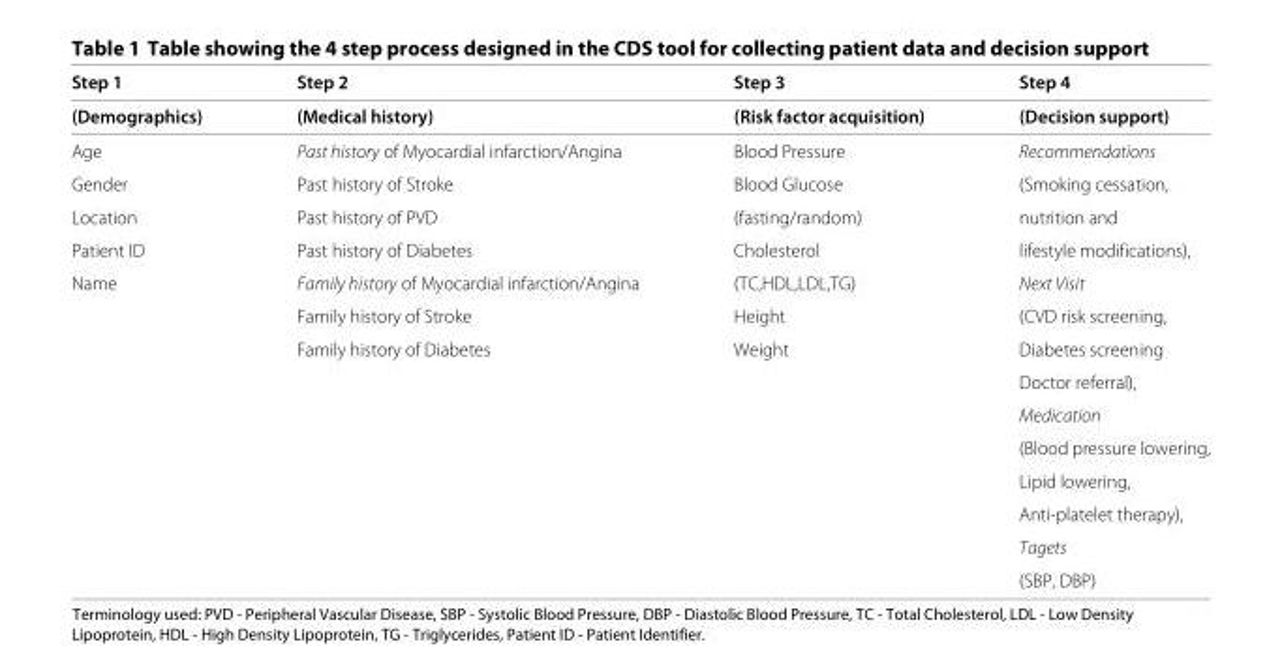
<table><thead><tr><td>Step 1</td><td>Step 2</td><td>Step 3</td><td>Step 4</td></tr></thead><tbody><tr><td>(Demographics)</td><td>(Medical history)</td><td>(Risk factor acquisition)</td><td>(Decision support)</td></tr><tr><td>Age</td><td>Past history of Myocardial infarction/Angina</td><td>Blood Pressure</td><td>Recommendations</td></tr><tr><td>Gender</td><td>Past history of Stroke</td><td>Blood Glucose</td><td>(Smoking cessation,</td></tr><tr><td>Location</td><td>Past history of PVD</td><td>(fasting/random)</td><td>nutrition and</td></tr><tr><td>Patient ID</td><td>Past history of Diabetes</td><td>Cholesterol</td><td>lifestyle modifications),</td></tr><tr><td rowspan="10">Name</td><td>Family history of Myocardial infarction/Angina</td><td>(TC,HDL,LDL,TG)</td><td>Next Visit</td></tr><tr><td>Family history of Stroke</td><td>Height</td><td>(CVD risk screening,</td></tr><tr><td>Family history of Diabetes</td><td>Weight</td><td>Diabetes screening</td></tr><tr><td></td><td></td><td>Doctor referral),</td></tr><tr><td></td><td></td><td>Medication</td></tr><tr><td></td><td></td><td>(Blood pressure lowering,</td></tr><tr><td></td><td></td><td>Lipid lowering,</td></tr><tr><td></td><td></td><td>Anti-platelet therapy),</td></tr><tr><td></td><td></td><td>Tagets</td></tr><tr><td></td><td></td><td>(SBP, DBP)</td></tr></tbody></table>